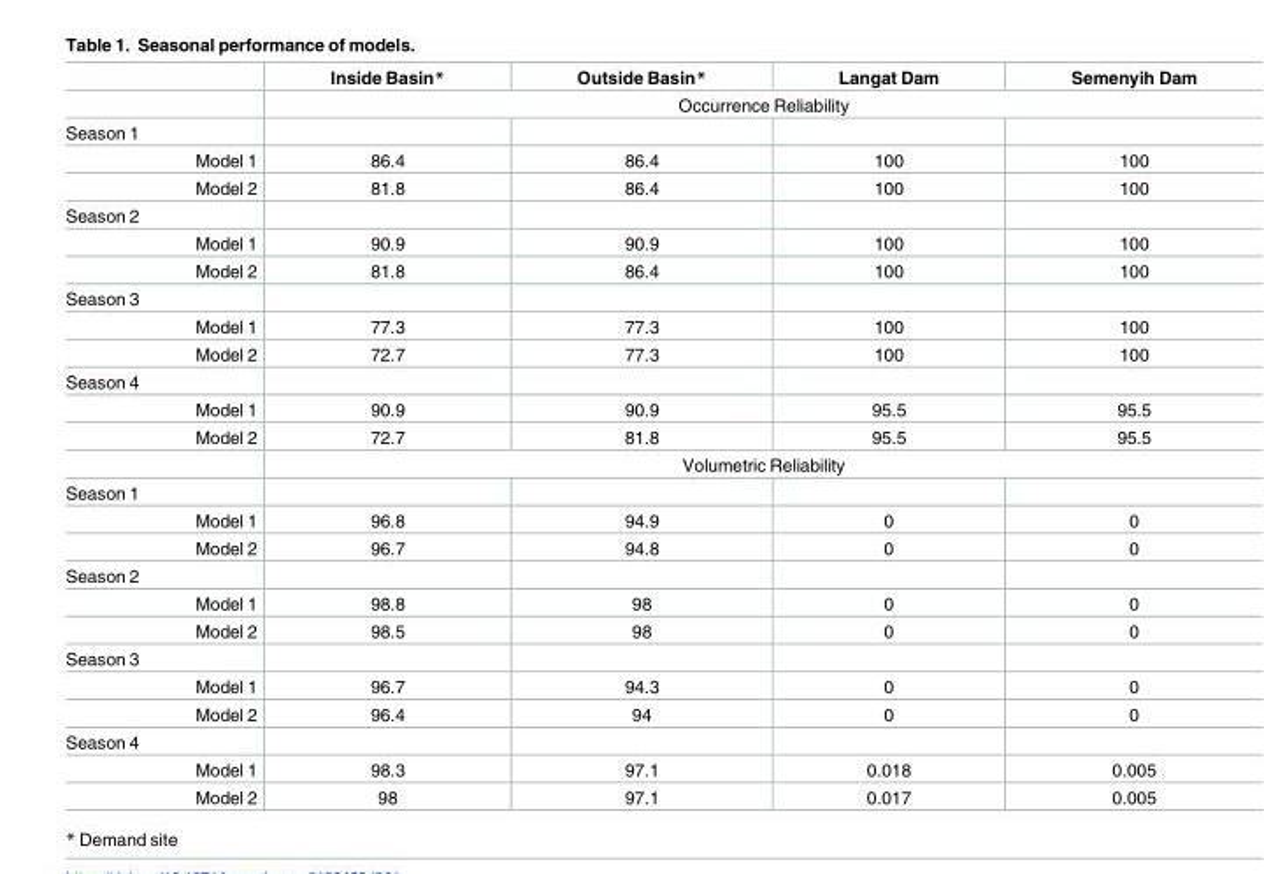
<table><thead><tr><td></td><td>Inside Basin*</td><td>Outside Basin*</td><td>Langat Dam</td><td>Semenyih Dam</td></tr></thead><tbody><tr><td></td><td colspan="4">Occurrence Reliability</td></tr><tr><td colspan="5">Season 1</td></tr><tr><td>Model 1</td><td>86.4</td><td>86.4</td><td>100</td><td>100</td></tr><tr><td>Model 2</td><td>81.8</td><td>86.4</td><td>100</td><td>100</td></tr><tr><td colspan="5">Season 2</td></tr><tr><td>Model 1</td><td>90.9</td><td>90.9</td><td>100</td><td>100</td></tr><tr><td>Model 2</td><td>81.8</td><td>86.4</td><td>100</td><td>100</td></tr><tr><td colspan="5">Season 3</td></tr><tr><td>Model 1</td><td>77.3</td><td>77.3</td><td>100</td><td>100</td></tr><tr><td>Model 2</td><td>72.7</td><td>77.3</td><td>100</td><td>100</td></tr><tr><td colspan="5">Season 4</td></tr><tr><td>Model 1</td><td>90.9</td><td>90.9</td><td>95.5</td><td>95.5</td></tr><tr><td rowspan="2">Model 2</td><td>72.7</td><td>81.8</td><td>95.5</td><td>95.5</td></tr><tr><td colspan="4">Volumetric Reliability</td></tr><tr><td colspan="5">Season 1</td></tr><tr><td>Model 1</td><td>96.8</td><td>94.9</td><td>0</td><td>0</td></tr><tr><td>Model 2</td><td>96.7</td><td>94.8</td><td>0</td><td>0</td></tr><tr><td colspan="5">Season 2</td></tr><tr><td>Model 1</td><td>98.8</td><td>98</td><td>0</td><td>0</td></tr><tr><td>Model 2</td><td>98.5</td><td>98</td><td>0</td><td>0</td></tr><tr><td colspan="5">Season 3</td></tr><tr><td>Model 1</td><td>96.7</td><td>94.3</td><td>0</td><td>0</td></tr><tr><td>Model 2</td><td>96.4</td><td>94</td><td>0</td><td>0</td></tr><tr><td colspan="5">Season 4</td></tr><tr><td>Model 1</td><td>98.3</td><td>97.1</td><td>0.018</td><td>0.005</td></tr><tr><td>Model 2</td><td>98</td><td>97.1</td><td>0.017</td><td>0.005</td></tr></tbody></table>